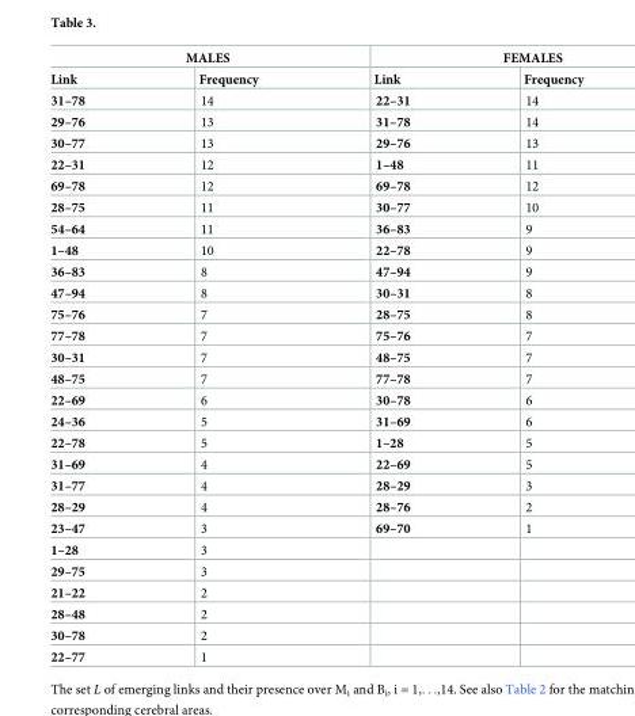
<table><thead><tr><td colspan="2">MALES</td><td colspan="2">FEMALES</td></tr><tr><td>Link</td><td>Frequency</td><td>Link</td><td>Frequency</td></tr></thead><tbody><tr><td>31–78</td><td>14</td><td>22–31</td><td>14</td></tr><tr><td>29–76</td><td>13</td><td>31–78</td><td>14</td></tr><tr><td>30–77</td><td>13</td><td>29–76</td><td>13</td></tr><tr><td>22–31</td><td>12</td><td>1–48</td><td>11</td></tr><tr><td>69–78</td><td>12</td><td>69–78</td><td>12</td></tr><tr><td>28–75</td><td>11</td><td>30–77</td><td>10</td></tr><tr><td>54–64</td><td>11</td><td>36–83</td><td>9</td></tr><tr><td>1–48</td><td>10</td><td>22–78</td><td>9</td></tr><tr><td>36–83</td><td>8</td><td>47–94</td><td>9</td></tr><tr><td>47–94</td><td>8</td><td>30–31</td><td>8</td></tr><tr><td>75–76</td><td>7</td><td>28–75</td><td>8</td></tr><tr><td>77–78</td><td>7</td><td>75–76</td><td>7</td></tr><tr><td>30–31</td><td>7</td><td>48–75</td><td>7</td></tr><tr><td>48–75</td><td>7</td><td>77–78</td><td>7</td></tr><tr><td>22–69</td><td>6</td><td>30–78</td><td>6</td></tr><tr><td>24–36</td><td>5</td><td>31–69</td><td>6</td></tr><tr><td>22–78</td><td>5</td><td>1–28</td><td>5</td></tr><tr><td>31–69</td><td>4</td><td>22–69</td><td>5</td></tr><tr><td>31–77</td><td>4</td><td>28–29</td><td>3</td></tr><tr><td>28–29</td><td>4</td><td>28–76</td><td>2</td></tr><tr><td>23–47</td><td>3</td><td>69–70</td><td>1</td></tr><tr><td>1–28</td><td>3</td><td></td><td></td></tr><tr><td>29–75</td><td>3</td><td></td><td></td></tr><tr><td>21–22</td><td>2</td><td></td><td></td></tr><tr><td>28–48</td><td>2</td><td></td><td></td></tr><tr><td>30–78</td><td>2</td><td></td><td></td></tr><tr><td>22–77</td><td>1</td><td></td><td></td></tr></tbody></table>